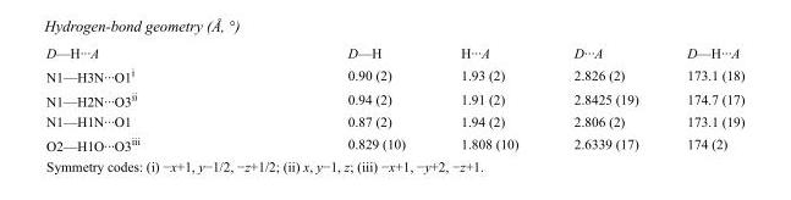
<table><tbody><tr><td>D—H···A</td><td>D—H</td><td>H···A</td><td>D···A</td><td>D—H···A</td></tr><tr><td>N1—H3N···O1<sup>i</sup></td><td>0.90 (2)</td><td>1.93 (2)</td><td>2.826 (2)</td><td>173.1 (18)</td></tr><tr><td>N1—H2N···O3<sup>ii</sup></td><td>0.94 (2)</td><td>1.91 (2)</td><td>2.8425 (19)</td><td>174.7 (17)</td></tr><tr><td>N1—H1N···O1</td><td>0.87 (2)</td><td>1.94 (2)</td><td>2.806 (2)</td><td>173.1 (19)</td></tr><tr><td>O2—H1O···O3<sup>iii</sup></td><td>0.829 (10)</td><td>1.808 (10)</td><td>2.6339 (17)</td><td>174 (2)</td></tr></tbody></table>